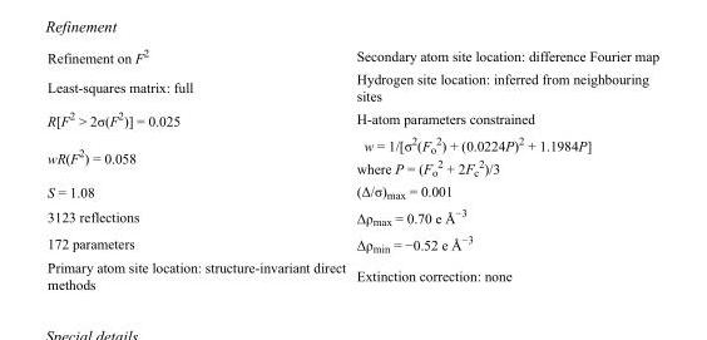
<table><tbody><tr><td>Refinement on F<sup>2</sup></td><td>Secondary atom site location: difference Fourier map</td></tr><tr><td>Least-squares matrix: full</td><td>Hydrogen site location: inferred from neighbouring sites</td></tr><tr><td>R[F<sup>2</sup> &gt; 2σ(F<sup>2</sup>)] = 0.025</td><td>H-atom parameters constrained</td></tr><tr><td>wR(F<sup>2</sup>) = 0.058</td><td>w = 1/[σ<sup>2</sup>(F<sub>o</sub> <sup>2</sup>) + (0.0224P)<sup>2</sup> + 1.1984P] where P = (F<sub>o</sub> <sup>2</sup> + 2F<sub>c</sub> <sup>2</sup>)/3</td></tr><tr><td>S = 1.08</td><td>(Δ/σ)<sub>max</sub> = 0.001</td></tr><tr><td>3123 reflections</td><td>Δρ<sub>max</sub> = 0.70 e Å<sup>−3</sup></td></tr><tr><td>172 parameters</td><td>Δρ<sub>min</sub> = −0.52 e Å<sup>−3</sup></td></tr><tr><td>Primary atom site location: structure-invariant direct methods</td><td>Extinction correction: none</td></tr></tbody></table>